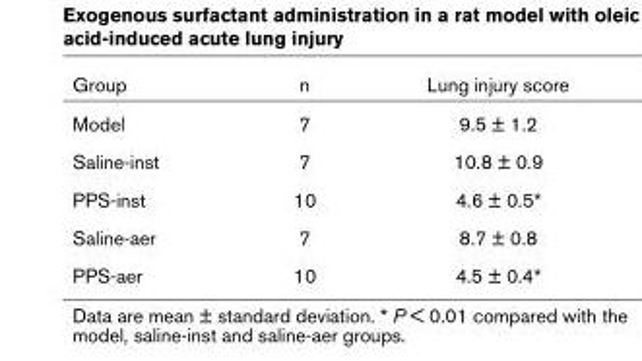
<table><thead><tr><td>Group</td><td>n</td><td>Lung injury score</td></tr></thead><tbody><tr><td>Model</td><td>7</td><td>9.5 ± 1.2</td></tr><tr><td>Saline-inst</td><td>7</td><td>10.8 ± 0.9</td></tr><tr><td>PPS-inst</td><td>10</td><td>4.6 ± 0.5*</td></tr><tr><td>Saline-aer</td><td>7</td><td>8.7 ± 0.8</td></tr><tr><td>PPS-aer</td><td>10</td><td>4.5 ± 0.4*</td></tr></tbody></table>